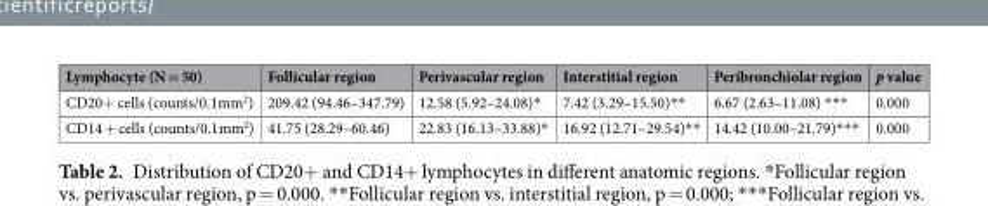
<table><thead><tr><td>Lymphocyte (N = 50)</td><td>Follicular region</td><td>Perivascular region</td><td>Interstitial region</td><td>Peribronchiolar region</td><td>p value</td></tr></thead><tbody><tr><td>CD20+ cells (counts/0.1mm<sup>2</sup>)</td><td>209.42 (94.46–347.79)</td><td>12.58 (5.92–24.08)*</td><td>7.42 (3.29–15.50)**</td><td>6.67 (2.63–11.08) ***</td><td>0.000</td></tr><tr><td>CD14 + cells (counts/0.1mm<sup>2</sup>)</td><td>41.75 (28.29–60.46)</td><td>22.83 (16.13–33.88)*</td><td>16.92 (12.71–29.54)**</td><td>14.42 (10.00–21.79)***</td><td>0.000</td></tr></tbody></table>